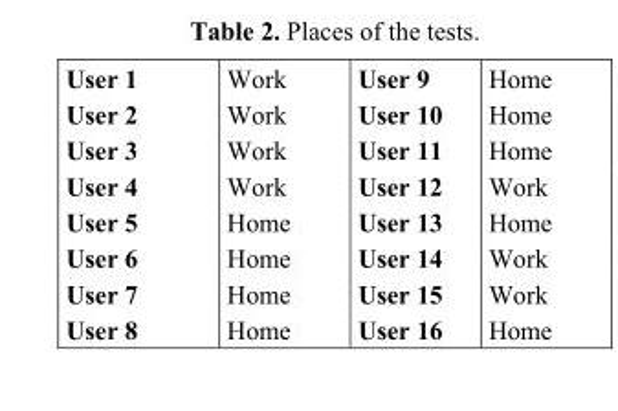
<table><tbody><tr><td>User 1</td><td>Work</td><td>User 9</td><td>Home</td></tr><tr><td>User 2</td><td>Work</td><td>User 10</td><td>Home</td></tr><tr><td>User 3</td><td>Work</td><td>User 11</td><td>Home</td></tr><tr><td>User 4</td><td>Work</td><td>User 12</td><td>Work</td></tr><tr><td>User 5</td><td>Home</td><td>User 13</td><td>Home</td></tr><tr><td>User 6</td><td>Home</td><td>User 14</td><td>Work</td></tr><tr><td>User 7</td><td>Home</td><td>User 15</td><td>Work</td></tr><tr><td>User 8</td><td>Home</td><td>User 16</td><td>Home</td></tr></tbody></table>